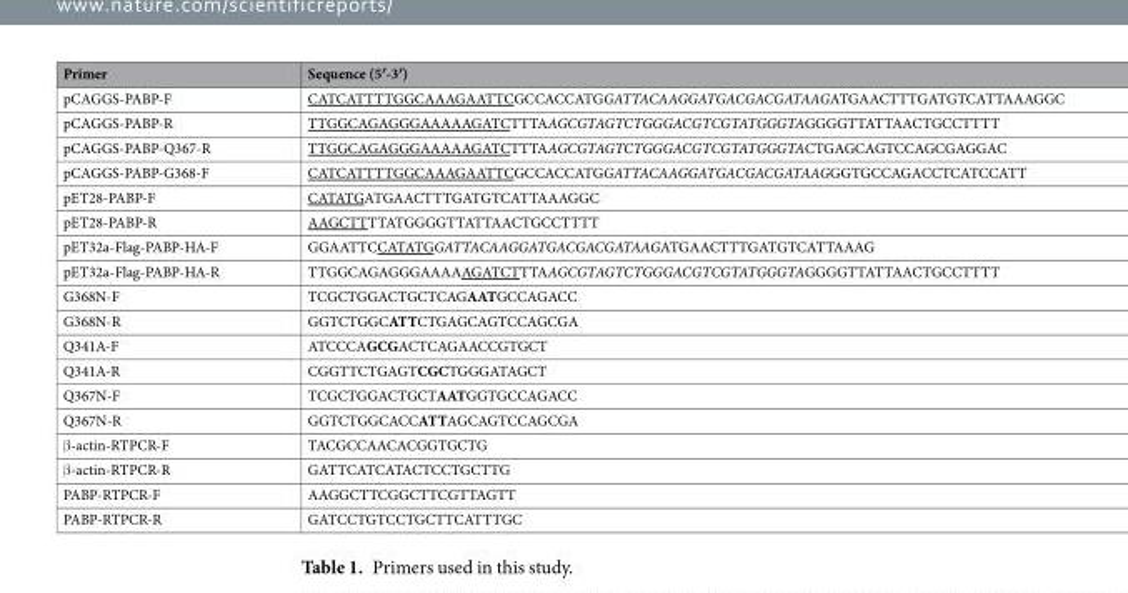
<table><thead><tr><td>Primer</td><td>Sequence (5′-3′)</td></tr></thead><tbody><tr><td>pCAGGS-PABP-F</td><td>CATCATTTTGGCAAAGAATTCGCCACCATGGATTACAAGGATGACGACGATAAGATGAACTTTGATGTCATTAAAGGC</td></tr><tr><td>pCAGGS-PABP-R</td><td>TTGGCAGAGGGAAAAAGATCTTTAAGCGTAGTCTGGGACGTCGTATGGGTAGGGGTTATTAACTGCCTTTT</td></tr><tr><td>pCAGGS-PABP-Q367-R</td><td>TTGGCAGAGGGAAAAAGATCTTTAAGCGTAGTCTGGGACGTCGTATGGGTACTGAGCAGTCCAGCGAGGAC</td></tr><tr><td>pCAGGS-PABP-G368-F</td><td>CATCATTTTGGCAAAGAATTCGCCACCATGGATTACAAGGATGACGACGATAAGGGTGCCAGACCTCATCCATT</td></tr><tr><td>pET28-PABP-F</td><td>CATATGATGAACTTTGATGTCATTAAAGGC</td></tr><tr><td>pET28-PABP-R</td><td>AAGCTTTTATGGGGTTATTAACTGCCTTTT</td></tr><tr><td>pET32a-Flag-PABP-HA-F</td><td>GGAATTCCATATGGATTACAAGGATGACGACGATAAGATGAACTTTGATGTCATTAAAG</td></tr><tr><td>pET32a-Flag-PABP-HA-R</td><td>TTGGCAGAGGGAAAAAGATCTTTAAGCGTAGTCTGGGACGTCGTATGGGTAGGGGTTATTAACTGCCTTTT</td></tr><tr><td>G368N-F</td><td>TCGCTGGACTGCTCAGAATGCCAGACC</td></tr><tr><td>G368N-R</td><td>GGTCTGGCATTCTGAGCAGTCCAGCGA</td></tr><tr><td>Q341A-F</td><td>ATCCCAGCGACTCAGAACCGTGCT</td></tr><tr><td>Q341A-R</td><td>CGGTTCTGAGTCGCTGGGATAGCT</td></tr><tr><td>Q367N-F</td><td>TCGCTGGACTGCTAATGGTGCCAGACC</td></tr><tr><td>Q367N-R</td><td>GGTCTGGCACCATTAGCAGTCCAGCGA</td></tr><tr><td>β-actin-RTPCR-F</td><td>TACGCCAACACGGTGCTG</td></tr><tr><td>β-actin-RTPCR-R</td><td>GATTCATCATACTCCTGCTTG</td></tr><tr><td>PABP-RTPCR-F</td><td>AAGGCTTCGGCTTCGTTAGTT</td></tr><tr><td>PABP-RTPCR-R</td><td>GATCCTGTCCTGCTTCATTTGC</td></tr></tbody></table>